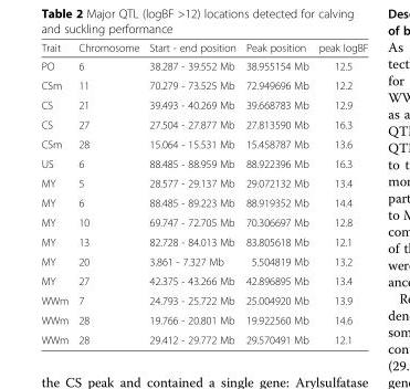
<table><thead><tr><td>Trait</td><td>Chromosome</td><td>Start - end position</td><td>Peak position</td><td>peak logBF</td></tr></thead><tbody><tr><td>PO</td><td>6</td><td>38.287 - 39.552 Mb</td><td>38.955154 Mb</td><td>12.5</td></tr><tr><td>CSm</td><td>11</td><td>70.279 - 73.525 Mb</td><td>72.949696 Mb</td><td>12.2</td></tr><tr><td>CS</td><td>21</td><td>39.493 - 40.269 Mb</td><td>39.668783 Mb</td><td>12.9</td></tr><tr><td>CS</td><td>27</td><td>27.504 - 27.877 Mb</td><td>27.813590 Mb</td><td>16.3</td></tr><tr><td>CSm</td><td>28</td><td>15.064 - 15.531 Mb</td><td>15.458787 Mb</td><td>13.6</td></tr><tr><td>US</td><td>6</td><td>88.485 - 88.959 Mb</td><td>88.922396 Mb</td><td>16.3</td></tr><tr><td>MY</td><td>5</td><td>28.577 - 29.137 Mb</td><td>29.072132 Mb</td><td>13.4</td></tr><tr><td>MY</td><td>6</td><td>88.485 - 89.223 Mb</td><td>88.919352 Mb</td><td>14.4</td></tr><tr><td>MY</td><td>10</td><td>69.747 - 72.705 Mb</td><td>70.306697 Mb</td><td>12.8</td></tr><tr><td>MY</td><td>13</td><td>82.728 - 84.013 Mb</td><td>83.805618 Mb</td><td>12.1</td></tr><tr><td>MY</td><td>20</td><td>3.861 - 7.327 Mb</td><td>5.504819 Mb</td><td>13.2</td></tr><tr><td>MY</td><td>27</td><td>42.375 - 43.266 Mb</td><td>42.896895 Mb</td><td>13.4</td></tr><tr><td>WWm</td><td>7</td><td>24.793 - 25.722 Mb</td><td>25.004920 Mb</td><td>13.9</td></tr><tr><td>WWm</td><td>28</td><td>19.766 - 20.801 Mb</td><td>19.922560 Mb</td><td>14.6</td></tr><tr><td>WWm</td><td>28</td><td>29.412 - 29.772 Mb</td><td>29.570491 Mb</td><td>12.1</td></tr></tbody></table>